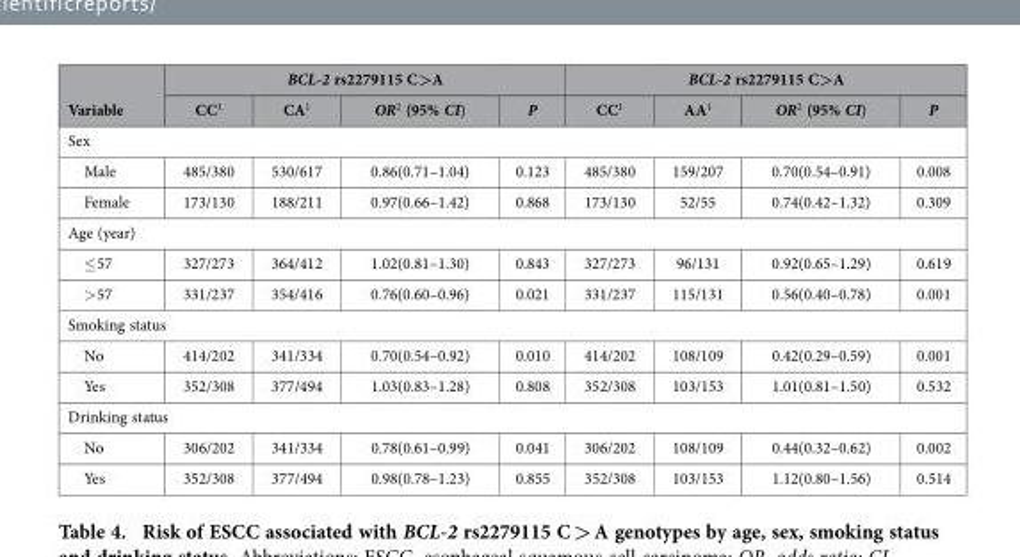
<table><thead><tr><td rowspan="2">Variable</td><td colspan="4">BCL-2 rs2279115 C&gt;A</td><td colspan="4">BCL-2 rs2279115 C&gt;A</td></tr><tr><td>CC<sup>1</sup></td><td>CA<sup>1</sup></td><td>OR<sup>2</sup> (95% CI)</td><td>P</td><td>CC<sup>1</sup></td><td>AA<sup>1</sup></td><td>OR<sup>2</sup> (95% CI)</td><td>P</td></tr></thead><tbody><tr><td colspan="9">Sex</td></tr><tr><td>Male</td><td>485/380</td><td>530/617</td><td>0.86(0.71–1.04)</td><td>0.123</td><td>485/380</td><td>159/207</td><td>0.70(0.54–0.91)</td><td>0.008</td></tr><tr><td>Female</td><td>173/130</td><td>188/211</td><td>0.97(0.66–1.42)</td><td>0.868</td><td>173/130</td><td>52/55</td><td>0.74(0.42–1.32)</td><td>0.309</td></tr><tr><td colspan="9">Age (year)</td></tr><tr><td>≤ 57</td><td>327/273</td><td>364/412</td><td>1.02(0.81–1.30)</td><td>0.843</td><td>327/273</td><td>96/131</td><td>0.92(0.65–1.29)</td><td>0.619</td></tr><tr><td>&gt; 57</td><td>331/237</td><td>354/416</td><td>0.76(0.60–0.96)</td><td>0.021</td><td>331/237</td><td>115/131</td><td>0.56(0.40–0.78)</td><td>0.001</td></tr><tr><td colspan="9">Smoking status</td></tr><tr><td>No</td><td>414/202</td><td>341/334</td><td>0.70(0.54–0.92)</td><td>0.010</td><td>414/202</td><td>108/109</td><td>0.42(0.29–0.59)</td><td>0.001</td></tr><tr><td>Yes</td><td>352/308</td><td>377/494</td><td>1.03(0.83–1.28)</td><td>0.808</td><td>352/308</td><td>103/153</td><td>1.01(0.81–1.50)</td><td>0.532</td></tr><tr><td colspan="9">Drinking status</td></tr><tr><td>No</td><td>306/202</td><td>341/334</td><td>0.78(0.61–0.99)</td><td>0.041</td><td>306/202</td><td>108/109</td><td>0.44(0.32–0.62)</td><td>0.002</td></tr><tr><td>Yes</td><td>352/308</td><td>377/494</td><td>0.98(0.78–1.23)</td><td>0.855</td><td>352/308</td><td>103/153</td><td>1.12(0.80–1.56)</td><td>0.514</td></tr></tbody></table>